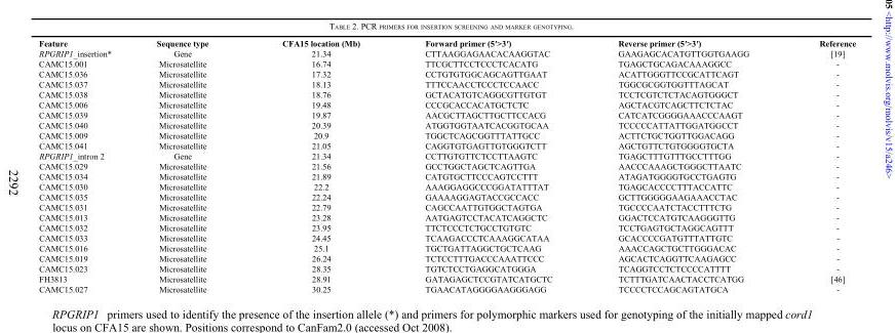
<table><thead><tr><td>Feature</td><td>Sequence type</td><td>CFA15 location (Mb)</td><td>Forward primer (5′&gt;3′)</td><td>Reverse primer (5′&gt;3′)</td><td>Reference</td></tr></thead><tbody><tr><td>RPGRIP1_insertion*</td><td>Gene</td><td>21.34</td><td>CTTAAGGAGAACACAAGGTAC</td><td>GAAGAGCACATGTTGGTGAAGG</td><td>[19]</td></tr><tr><td>CAMC15.001</td><td>Microsatellite</td><td>16.74</td><td>TTCGCTTCCTCCCTCACATG</td><td>TGAGCTGCAGACAAAGGCC</td><td>-</td></tr><tr><td>CAMC15.036</td><td>Microsatellite</td><td>17.32</td><td>CCTGTGTGGCAGCAGTTGAAT</td><td>ACATTGGGTTCCGCATTCAGT</td><td>-</td></tr><tr><td>CAMC15.037</td><td>Microsatellite</td><td>18.13</td><td>TTTCCAACCTCCCTCCAACC</td><td>TGGCGCGGTGGTTTAGCAT</td><td>-</td></tr><tr><td>CAMC15.038</td><td>Microsatellite</td><td>18.76</td><td>GCTACATGTCAGGCGTTGTGT</td><td>TCCTCGTCTCTACAGTGGGCT</td><td>-</td></tr><tr><td>CAMC15.006</td><td>Microsatellite</td><td>19.48</td><td>CCCGCACCACATGCTCTC</td><td>AGCTACGTCAGCTTCTCTAC</td><td>-</td></tr><tr><td>CAMC15.039</td><td>Microsatellite</td><td>19.87</td><td>AACGCTTAGCTTGCTTCCACG</td><td>CATCATCGGGGAAACCCAAGT</td><td>-</td></tr><tr><td>CAMC15.040</td><td>Microsatellite</td><td>20.39</td><td>ATGGTGGTAATCACGGTGCAA</td><td>TCCCCCATTATTGGATGGCCT</td><td>-</td></tr><tr><td>CAMC15.009</td><td>Microsatellite</td><td>20.9</td><td>TGGCTCAGCGGTTTATTGCC</td><td>ACTTCTGCTGGTTGGACAGG</td><td>-</td></tr><tr><td>CAMC15.041</td><td>Microsatellite</td><td>21.05</td><td>CAGGTGTGAGTTGTGGGTCTT</td><td>AGCTGTTCTGTGGGGTGCTA</td><td>-</td></tr><tr><td>RPGRIP1_intron 2</td><td>Gene</td><td>21.34</td><td>CCTTGTGTTCTCCTTAAGTC</td><td>TGAGCTTTGTTTGCCTTTGG</td><td>-</td></tr><tr><td>CAMC15.029</td><td>Microsatellite</td><td>21.56</td><td>GCCTGGCTAGCTCAGTTGA</td><td>AACCCAAAGCTGGGCTTAATC</td><td>-</td></tr><tr><td>CAMC15.034</td><td>Microsatellite</td><td>21.89</td><td>CATGTGCTTCCCAGTCCTTT</td><td>ATAGATGGGGTGCCTGAGTG</td><td>-</td></tr><tr><td>CAMC15.030</td><td>Microsatellite</td><td>22.2</td><td>AAAGGAGGCCCGGATATTTAT</td><td>TGAGCACCCCTTTACCATTC</td><td>-</td></tr><tr><td>CAMC15.035</td><td>Microsatellite</td><td>22.24</td><td>GAAAAGGAGTACCGCCACC</td><td>GCTTGGGGGAAGAAACCTAC</td><td>-</td></tr><tr><td>CAMC15.031</td><td>Microsatellite</td><td>22.79</td><td>CAGCCAATTGTGGCTAGTGA</td><td>TGCCCCAATCTACCTTTCTG</td><td>-</td></tr><tr><td>CAMC15.013</td><td>Microsatellite</td><td>23.28</td><td>AATGAGTCCTACATCAGGCTC</td><td>GGACTCCATGTCAAGGGTTG</td><td>-</td></tr><tr><td>CAMC15.032</td><td>Microsatellite</td><td>23.95</td><td>TTCTCCCTCTGCCTGTGTC</td><td>TCCTGAGTGCTAGGCAGTTT</td><td>-</td></tr><tr><td>CAMC15.033</td><td>Microsatellite</td><td>24.45</td><td>TCAAGACCCTCAAAGGCATAA</td><td>GCACCCCGATGTTTATTGTC</td><td>-</td></tr><tr><td>CAMC15.016</td><td>Microsatellite</td><td>25.1</td><td>TGCTGATTAGGCTGCTCAAG</td><td>AAACCAGCTGCTTGGGACAC</td><td>-</td></tr><tr><td>CAMC15.019</td><td>Microsatellite</td><td>26.24</td><td>TCTCCTTTGACCCAAATTCCC</td><td>AGCACTCAGGTTCAAGAGCC</td><td>-</td></tr><tr><td>CAMC15.023</td><td>Microsatellite</td><td>28.35</td><td>TGTCTCCTGAGGCATGGGA</td><td>TCAGGTCCTCTCCCCATTTT</td><td>-</td></tr><tr><td>FH3813</td><td>Microsatellite</td><td>28.91</td><td>GATAGAGCTCCGTATCATGCTC</td><td>TCTTTGATCAACTACCTCATGG</td><td>[46]</td></tr><tr><td>CAMC15.027</td><td>Microsatellite</td><td>30.25</td><td>TGAACATAGGGGAAGGGAGG</td><td>TCCCCTCCAGCAGTATGCA</td><td>-</td></tr></tbody></table>